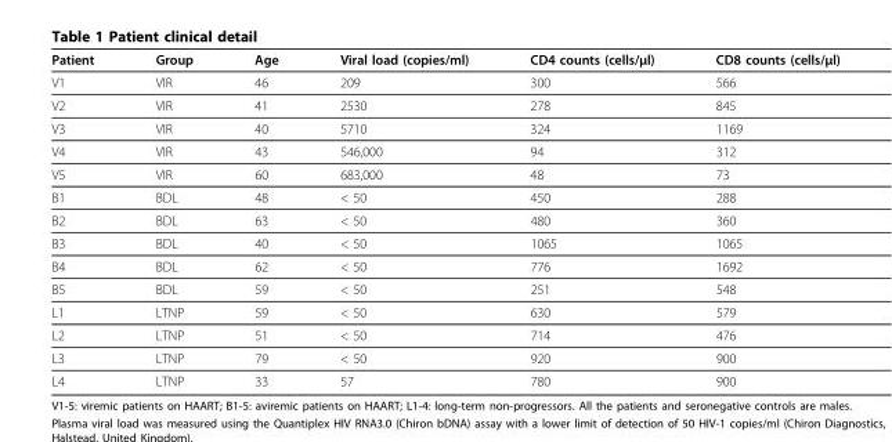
<table><thead><tr><td>Patient</td><td>Group</td><td>Age</td><td>Viral load (copies/ml)</td><td>CD4 counts (cells/μl)</td><td>CD8 counts (cells/μl)</td></tr></thead><tbody><tr><td>V1</td><td>VIR</td><td>46</td><td>209</td><td>300</td><td>566</td></tr><tr><td>V2</td><td>VIR</td><td>41</td><td>2530</td><td>278</td><td>845</td></tr><tr><td>V3</td><td>VIR</td><td>40</td><td>5710</td><td>324</td><td>1169</td></tr><tr><td>V4</td><td>VIR</td><td>43</td><td>546,000</td><td>94</td><td>312</td></tr><tr><td>V5</td><td>VIR</td><td>60</td><td>683,000</td><td>48</td><td>73</td></tr><tr><td>B1</td><td>BDL</td><td>48</td><td>&lt; 50</td><td>450</td><td>288</td></tr><tr><td>B2</td><td>BDL</td><td>63</td><td>&lt; 50</td><td>480</td><td>360</td></tr><tr><td>B3</td><td>BDL</td><td>40</td><td>&lt; 50</td><td>1065</td><td>1065</td></tr><tr><td>B4</td><td>BDL</td><td>62</td><td>&lt; 50</td><td>776</td><td>1692</td></tr><tr><td>B5</td><td>BDL</td><td>59</td><td>&lt; 50</td><td>251</td><td>548</td></tr><tr><td>L1</td><td>LTNP</td><td>59</td><td>&lt; 50</td><td>630</td><td>579</td></tr><tr><td>L2</td><td>LTNP</td><td>51</td><td>&lt; 50</td><td>714</td><td>476</td></tr><tr><td>L3</td><td>LTNP</td><td>79</td><td>&lt; 50</td><td>920</td><td>900</td></tr><tr><td>L4</td><td>LTNP</td><td>33</td><td>57</td><td>780</td><td>900</td></tr></tbody></table>